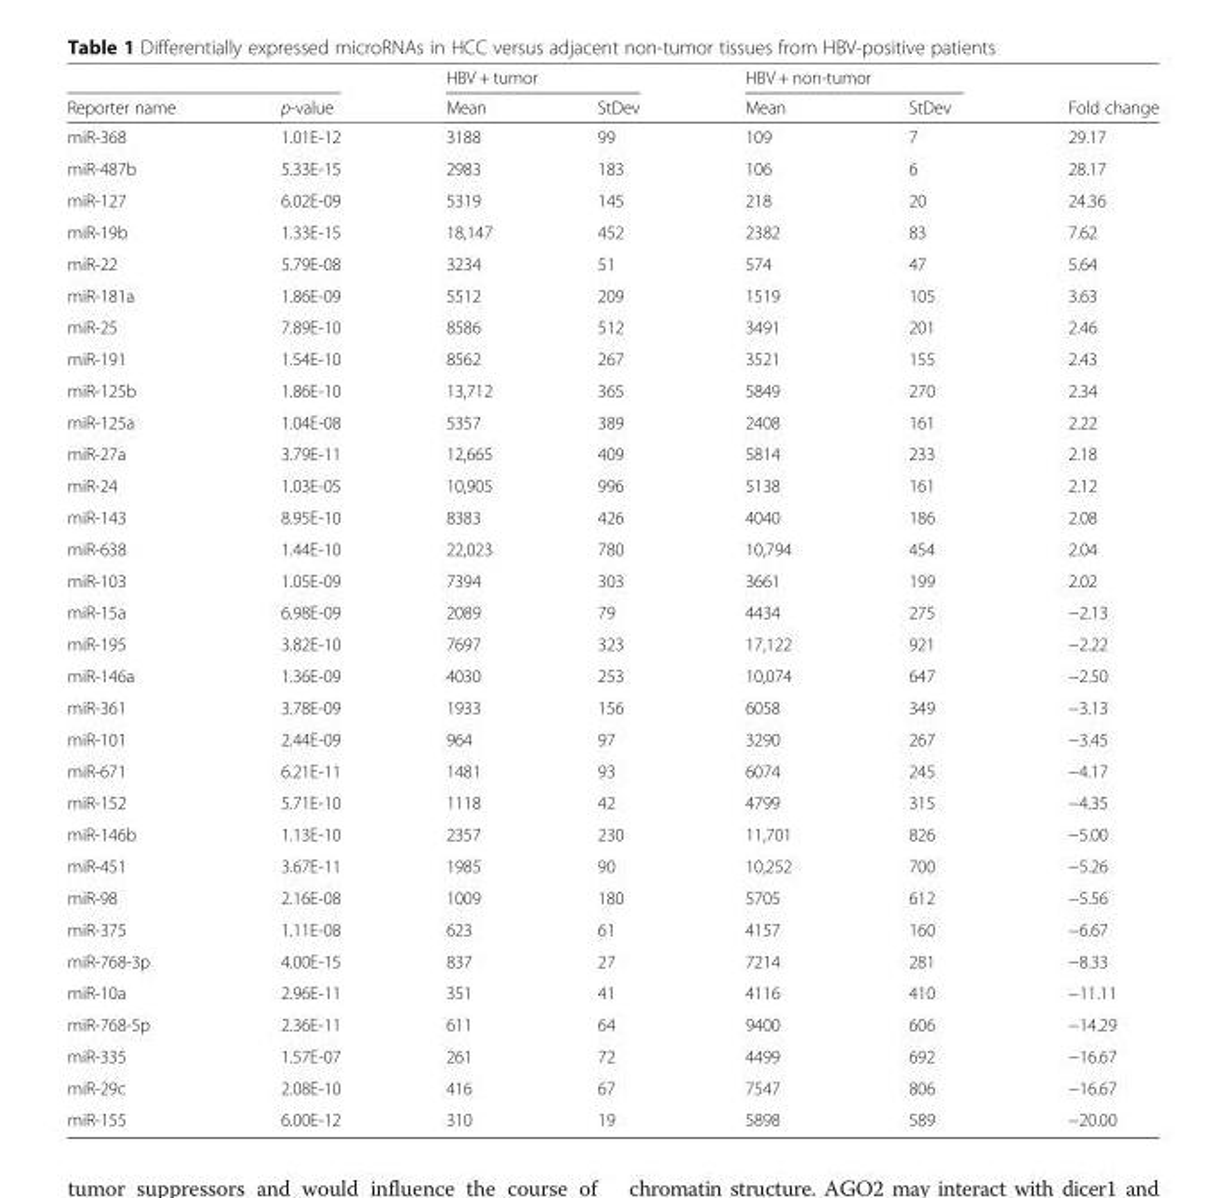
<table><thead><tr><td rowspan="2">Reporter name</td><td rowspan="2">p-value</td><td colspan="2">HBV + tumor</td><td colspan="2">HBV + non-tumor</td><td rowspan="2">Fold change</td></tr><tr><td>Mean</td><td>StDev</td><td>Mean</td><td>StDev</td></tr></thead><tbody><tr><td>miR-368</td><td>1.01E-12</td><td>3188</td><td>99</td><td>109</td><td>7</td><td>29.17</td></tr><tr><td>miR-487b</td><td>5.33E-15</td><td>2983</td><td>183</td><td>106</td><td>6</td><td>28.17</td></tr><tr><td>miR-127</td><td>6.02E-09</td><td>5319</td><td>145</td><td>218</td><td>20</td><td>24.36</td></tr><tr><td>miR-19b</td><td>1.33E-15</td><td>18,147</td><td>452</td><td>2382</td><td>83</td><td>7.62</td></tr><tr><td>miR-22</td><td>5.79E-08</td><td>3234</td><td>51</td><td>574</td><td>47</td><td>5.64</td></tr><tr><td>miR-181a</td><td>1.86E-09</td><td>5512</td><td>209</td><td>1519</td><td>105</td><td>3.63</td></tr><tr><td>miR-25</td><td>7.89E-10</td><td>8586</td><td>512</td><td>3491</td><td>201</td><td>2.46</td></tr><tr><td>miR-191</td><td>1.54E-10</td><td>8562</td><td>267</td><td>3521</td><td>155</td><td>2.43</td></tr><tr><td>miR-125b</td><td>1.86E-10</td><td>13,712</td><td>365</td><td>5849</td><td>270</td><td>2.34</td></tr><tr><td>miR-125a</td><td>1.04E-08</td><td>5357</td><td>389</td><td>2408</td><td>161</td><td>2.22</td></tr><tr><td>miR-27a</td><td>3.79E-11</td><td>12,665</td><td>409</td><td>5814</td><td>233</td><td>2.18</td></tr><tr><td>miR-24</td><td>1.03E-05</td><td>10,905</td><td>996</td><td>5138</td><td>161</td><td>2.12</td></tr><tr><td>miR-143</td><td>8.95E-10</td><td>8383</td><td>426</td><td>4040</td><td>186</td><td>2.08</td></tr><tr><td>miR-638</td><td>1.44E-10</td><td>22,023</td><td>780</td><td>10,794</td><td>454</td><td>2.04</td></tr><tr><td>miR-103</td><td>1.05E-09</td><td>7394</td><td>303</td><td>3661</td><td>199</td><td>2.02</td></tr><tr><td>miR-15a</td><td>6.98E-09</td><td>2089</td><td>79</td><td>4434</td><td>275</td><td>−2.13</td></tr><tr><td>miR-195</td><td>3.82E-10</td><td>7697</td><td>323</td><td>17,122</td><td>921</td><td>−2.22</td></tr><tr><td>miR-146a</td><td>1.36E-09</td><td>4030</td><td>253</td><td>10,074</td><td>647</td><td>−2.50</td></tr><tr><td>miR-361</td><td>3.78E-09</td><td>1933</td><td>156</td><td>6058</td><td>349</td><td>−3.13</td></tr><tr><td>miR-101</td><td>2.44E-09</td><td>964</td><td>97</td><td>3290</td><td>267</td><td>−3.45</td></tr><tr><td>miR-671</td><td>6.21E-11</td><td>1481</td><td>93</td><td>6074</td><td>245</td><td>−4.17</td></tr><tr><td>miR-152</td><td>5.71E-10</td><td>1118</td><td>42</td><td>4799</td><td>315</td><td>−4.35</td></tr><tr><td>miR-146b</td><td>1.13E-10</td><td>2357</td><td>230</td><td>11,701</td><td>826</td><td>−5.00</td></tr><tr><td>miR-451</td><td>3.67E-11</td><td>1985</td><td>90</td><td>10,252</td><td>700</td><td>−5.26</td></tr><tr><td>miR-98</td><td>2.16E-08</td><td>1009</td><td>180</td><td>5705</td><td>612</td><td>−5.56</td></tr><tr><td>miR-375</td><td>1.11E-08</td><td>623</td><td>61</td><td>4157</td><td>160</td><td>−6.67</td></tr><tr><td>miR-768-3p</td><td>4.00E-15</td><td>837</td><td>27</td><td>7214</td><td>281</td><td>−8.33</td></tr><tr><td>miR-10a</td><td>2.96E-11</td><td>351</td><td>41</td><td>4116</td><td>410</td><td>−11.11</td></tr><tr><td>miR-768-5p</td><td>2.36E-11</td><td>611</td><td>64</td><td>9400</td><td>606</td><td>−14.29</td></tr><tr><td>miR-335</td><td>1.57E-07</td><td>261</td><td>72</td><td>4499</td><td>692</td><td>−16.67</td></tr><tr><td>miR-29c</td><td>2.08E-10</td><td>416</td><td>67</td><td>7547</td><td>806</td><td>−16.67</td></tr><tr><td>miR-155</td><td>6.00E-12</td><td>310</td><td>19</td><td>5898</td><td>589</td><td>−20.00</td></tr></tbody></table>